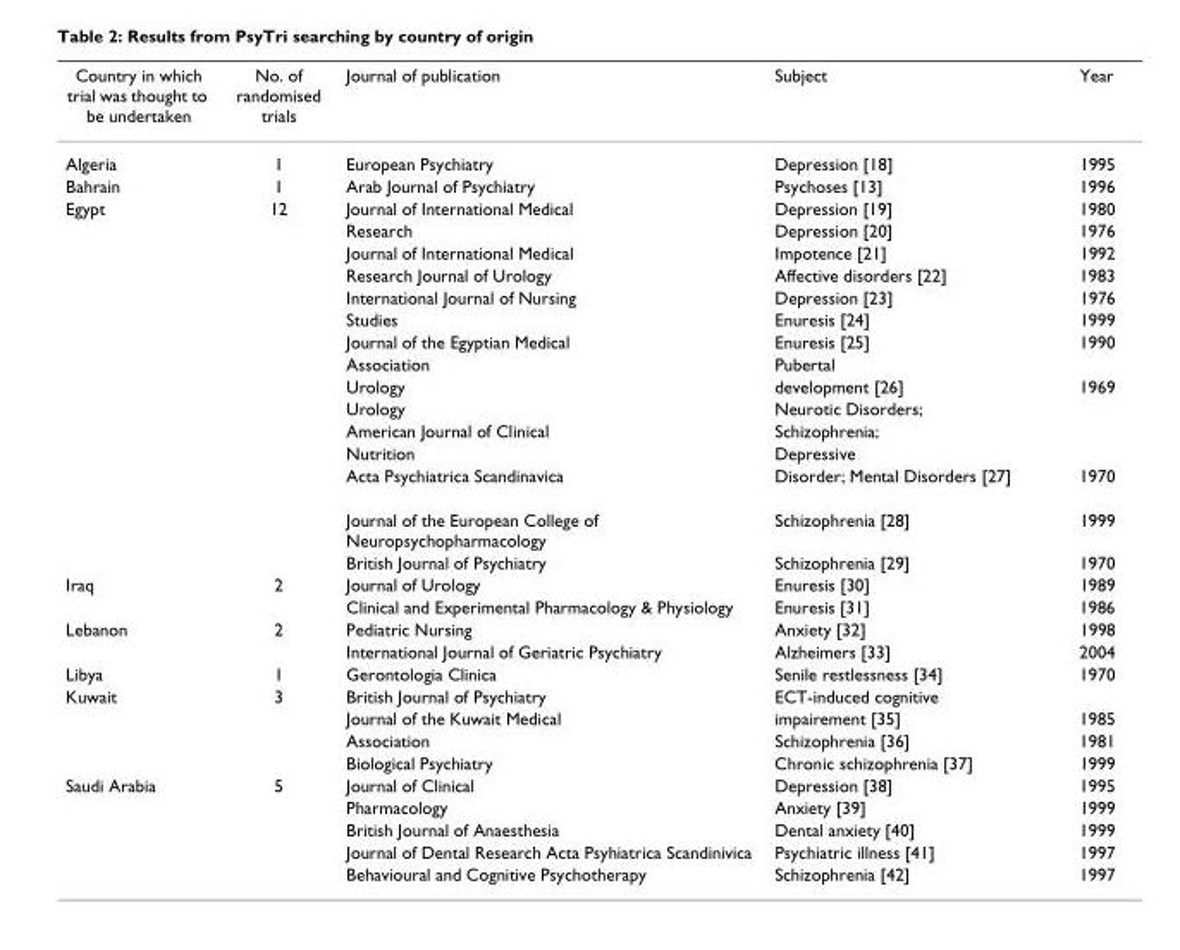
<table><thead><tr><td>Country in which trial was thought to be undertaken</td><td>No. of randomised trials</td><td>Journal of publication</td><td>Subject</td><td>Year</td></tr></thead><tbody><tr><td>Algeria</td><td>1</td><td>European Psychiatry</td><td>Depression [18]</td><td>1995</td></tr><tr><td>Bahrain</td><td>1</td><td>Arab Journal of Psychiatry</td><td>Psychoses [13]</td><td>1996</td></tr><tr><td rowspan="15">Egypt</td><td>12</td><td>Journal of International Medical</td><td>Depression [19]</td><td>1980</td></tr><tr><td></td><td>Research</td><td>Depression [20]</td><td>1976</td></tr><tr><td></td><td>Journal of International Medical</td><td>Impotence [21]</td><td>1992</td></tr><tr><td></td><td>Research Journal of Urology</td><td>Affective disorders [22]</td><td>1983</td></tr><tr><td></td><td>International Journal of Nursing</td><td>Depression [23]</td><td>1976</td></tr><tr><td></td><td>Studies</td><td>Enuresis [24]</td><td>1999</td></tr><tr><td></td><td>Journal of the Egyptian Medical</td><td>Enuresis [25]</td><td>1990</td></tr><tr><td></td><td>Association</td><td>Pubertal</td><td></td></tr><tr><td></td><td>Urology</td><td>development [26]</td><td>1969</td></tr><tr><td></td><td>Urology</td><td>Neurotic Disorders;</td><td></td></tr><tr><td></td><td>American Journal of Clinical</td><td>Schizophrenia;</td><td></td></tr><tr><td></td><td>Nutrition</td><td>Depressive</td><td></td></tr><tr><td></td><td>Acta Psychiatrica Scandinavica</td><td>Disorder; Mental Disorders [27]</td><td>1970</td></tr><tr><td></td><td>Journal of the European College of Neuropsychopharmacology</td><td>Schizophrenia [28]</td><td>1999</td></tr><tr><td></td><td>British Journal of Psychiatry</td><td>Schizophrenia [29]</td><td>1970</td></tr><tr><td rowspan="2">Iraq</td><td>2</td><td>Journal of Urology</td><td>Enuresis [30]</td><td>1989</td></tr><tr><td></td><td>Clinical and Experimental Pharmacology &amp; Physiology</td><td>Enuresis [31]</td><td>1986</td></tr><tr><td rowspan="2">Lebanon</td><td>2</td><td>Pediatric Nursing</td><td>Anxiety [32]</td><td>1998</td></tr><tr><td></td><td>International Journal of Geriatric Psychiatry</td><td>Alzheimers [33]</td><td>2004</td></tr><tr><td>Libya</td><td>1</td><td>Gerontologia Clinica</td><td>Senile restlessness [34]</td><td>1970</td></tr><tr><td rowspan="4">Kuwait</td><td>3</td><td>British Journal of Psychiatry</td><td>ECT-induced cognitive</td><td></td></tr><tr><td></td><td>Journal of the Kuwait Medical</td><td>impairement [35]</td><td>1985</td></tr><tr><td></td><td>Association</td><td>Schizophrenia [36]</td><td>1981</td></tr><tr><td></td><td>Biological Psychiatry</td><td>Chronic schizophrenia [37]</td><td>1999</td></tr><tr><td rowspan="5">Saudi Arabia</td><td>5</td><td>Journal of Clinical</td><td>Depression [38]</td><td>1995</td></tr><tr><td></td><td>Pharmacology</td><td>Anxiety [39]</td><td>1999</td></tr><tr><td></td><td>British Journal of Anaesthesia</td><td>Dental anxiety [40]</td><td>1999</td></tr><tr><td></td><td>Journal of Dental Research Acta Psyhiatrica Scandinivica</td><td>Psychiatric illness [41]</td><td>1997</td></tr><tr><td></td><td>Behavioural and Cognitive Psychotherapy</td><td>Schizophrenia [42]</td><td>1997</td></tr></tbody></table>